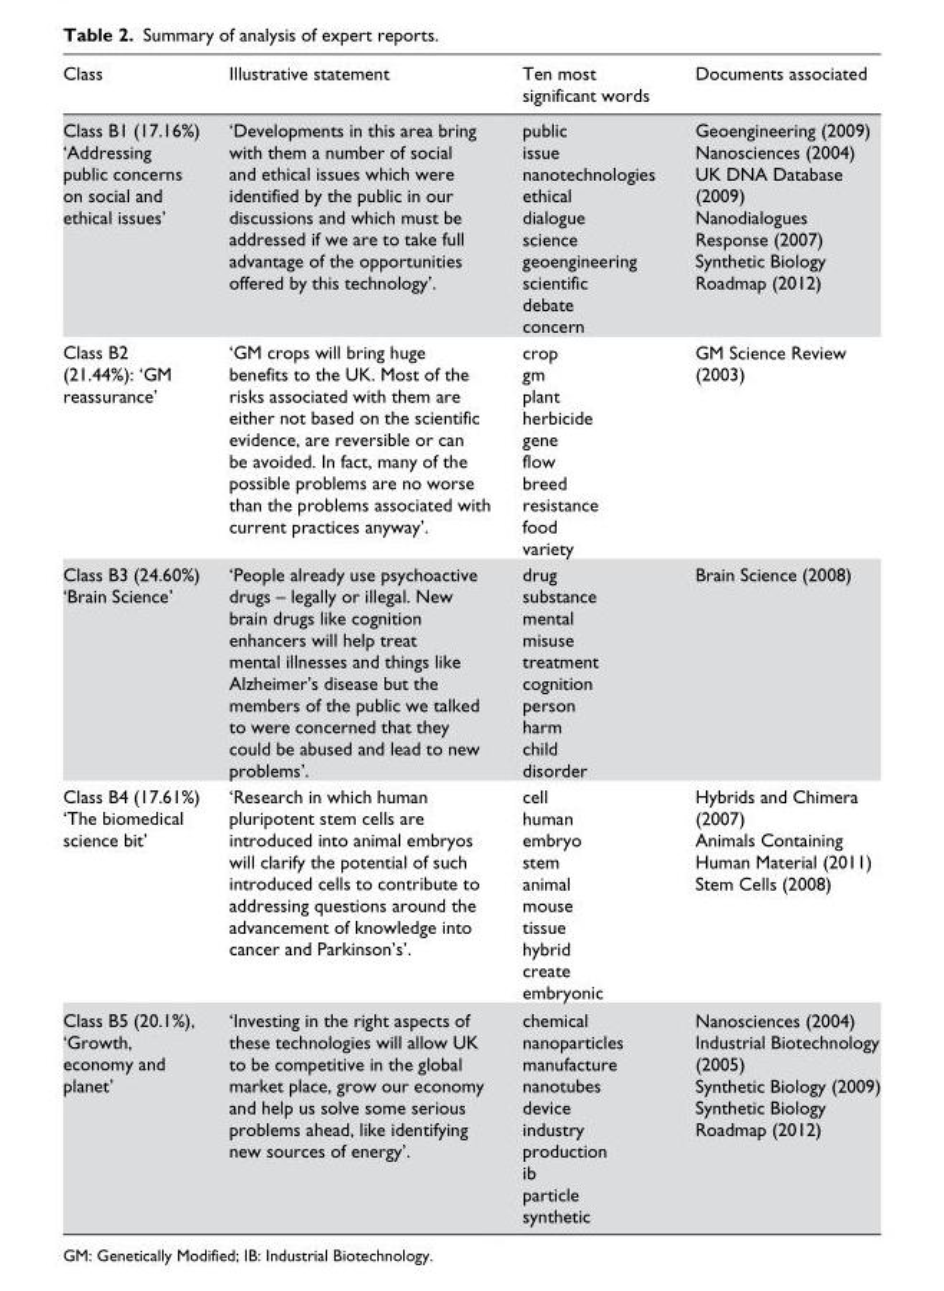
<table><thead><tr><td>Class</td><td>Illustrative statement</td><td>Ten most significant words</td><td>Documents associated</td></tr></thead><tbody><tr><td>Class B1 (17.16%) ‘Addressing public concerns on social and ethical issues’</td><td>‘Developments in this area bring with them a number of social and ethical issues which were identified by the public in our discussions and which must be addressed if we are to take full advantage of the opportunities offered by this technology’.</td><td>public issue nanotechnologies ethical dialogue science geoengineering scientific debate concern</td><td>Geoengineering (2009) Nanosciences (2004) UK DNA Database (2009) Nanodialogues Response (2007) Synthetic Biology Roadmap (2012)</td></tr><tr><td>Class B2 (21.44%): ‘GM reassurance’</td><td>‘GM crops will bring huge benefits to the UK. Most of the risks associated with them are either not based on the scientific evidence, are reversible or can be avoided. In fact, many of the possible problems are no worse than the problems associated with current practices anyway’.</td><td>crop gm plant herbicide gene flow breed resistance food variety</td><td>GM Science Review (2003)</td></tr><tr><td>Class B3 (24.60%) ‘Brain Science’</td><td>‘People already use psychoactive drugs – legally or illegal. New brain drugs like cognition enhancers will help treat mental illnesses and things like Alzheimer’s disease but the members of the public we talked to were concerned that they could be abused and lead to new problems’.</td><td>drug substance mental misuse treatment cognition person harm child disorder</td><td>Brain Science (2008)</td></tr><tr><td>Class B4 (17.61%) ‘The biomedical science bit’</td><td>‘Research in which human pluripotent stem cells are introduced into animal embryos will clarify the potential of such introduced cells to contribute to addressing questions around the advancement of knowledge into cancer and Parkinson’s’.</td><td>cell human embryo stem animal mouse tissue hybrid create embryonic</td><td>Hybrids and Chimera (2007) Animals Containing Human Material (2011) Stem Cells (2008)</td></tr><tr><td>Class B5 (20.1%), ‘Growth, economy and planet’</td><td>‘Investing in the right aspects of these technologies will allow UK to be competitive in the global market place, grow our economy and help us solve some serious problems ahead, like identifying new sources of energy’.</td><td>chemical nanoparticles manufacture nanotubes device industry production ib particle synthetic</td><td>Nanosciences (2004) Industrial Biotechnology (2005) Synthetic Biology (2009) Synthetic Biology Roadmap (2012)</td></tr></tbody></table>